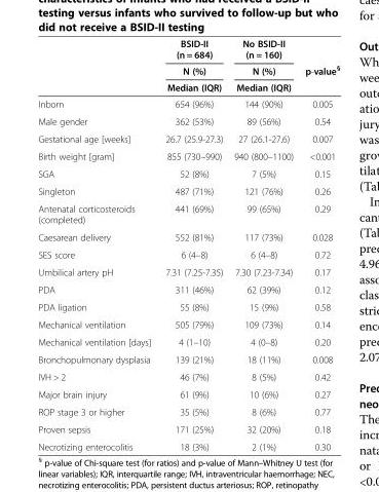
<table><thead><tr><td rowspan="3"></td><td rowspan="3">BSID-II (n = 684) N (%) Median (IQR)</td><td rowspan="3">No BSID-II (n = 160) N (%) Median (IQR)</td><td rowspan="3">p-value<sup>§</sup></td></tr><tr></tr><tr></tr></thead><tbody><tr><td>Inborn</td><td>654 (96%)</td><td>144 (90%)</td><td>0.005</td></tr><tr><td>Male gender</td><td>362 (53%)</td><td>89 (56%)</td><td>0.54</td></tr><tr><td>Gestational age [weeks]</td><td>26.7 (25.9-27.3)</td><td>27 (26.1-27.6)</td><td>0.007</td></tr><tr><td>Birth weight [gram]</td><td>855 (730–990)</td><td>940 (800–1100)</td><td>&lt;0.001</td></tr><tr><td>SGA</td><td>52 (8%)</td><td>7 (5%)</td><td>0.15</td></tr><tr><td>Singleton</td><td>487 (71%)</td><td>121 (76%)</td><td>0.26</td></tr><tr><td>Antenatal corticosteroids (completed)</td><td>441 (69%)</td><td>99 (65%)</td><td>0.29</td></tr><tr><td>Caesarean delivery</td><td>552 (81%)</td><td>117 (73%)</td><td>0.028</td></tr><tr><td>SES score</td><td>6 (4–8)</td><td>6 (4–8)</td><td>0.72</td></tr><tr><td>Umbilical artery pH</td><td>7.31 (7.25-7.35)</td><td>7.30 (7.23-7.34)</td><td>0.17</td></tr><tr><td>PDA</td><td>311 (46%)</td><td>62 (39%)</td><td>0.12</td></tr><tr><td>PDA ligation</td><td>55 (8%)</td><td>15 (9%)</td><td>0.58</td></tr><tr><td>Mechanical ventilation</td><td>505 (79%)</td><td>109 (73%)</td><td>0.14</td></tr><tr><td>Mechanical ventilation [days]</td><td>4 (1–10)</td><td>4 (0–8)</td><td>0.20</td></tr><tr><td>Bronchopulmonary dysplasia</td><td>139 (21%)</td><td>18 (11%)</td><td>0.008</td></tr><tr><td>IVH &gt; 2</td><td>46 (7%)</td><td>8 (5%)</td><td>0.42</td></tr><tr><td>Major brain injury</td><td>61 (9%)</td><td>10 (6%)</td><td>0.27</td></tr><tr><td>ROP stage 3 or higher</td><td>35 (5%)</td><td>8 (6%)</td><td>0.77</td></tr><tr><td>Proven sepsis</td><td>171 (25%)</td><td>32 (20%)</td><td>0.18</td></tr><tr><td>Necrotizing enterocolitis</td><td>18 (3%)</td><td>2 (1%)</td><td>0.30</td></tr></tbody></table>